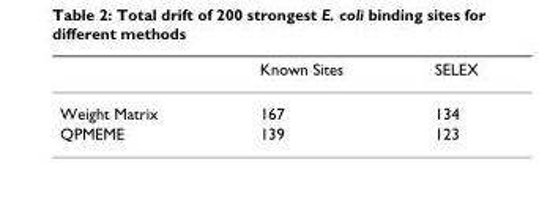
<table><thead><tr><td></td><td>Known Sites</td><td>SELEX</td></tr></thead><tbody><tr><td>Weight Matrix</td><td>167</td><td>134</td></tr><tr><td>QPMEME</td><td>139</td><td>123</td></tr></tbody></table>